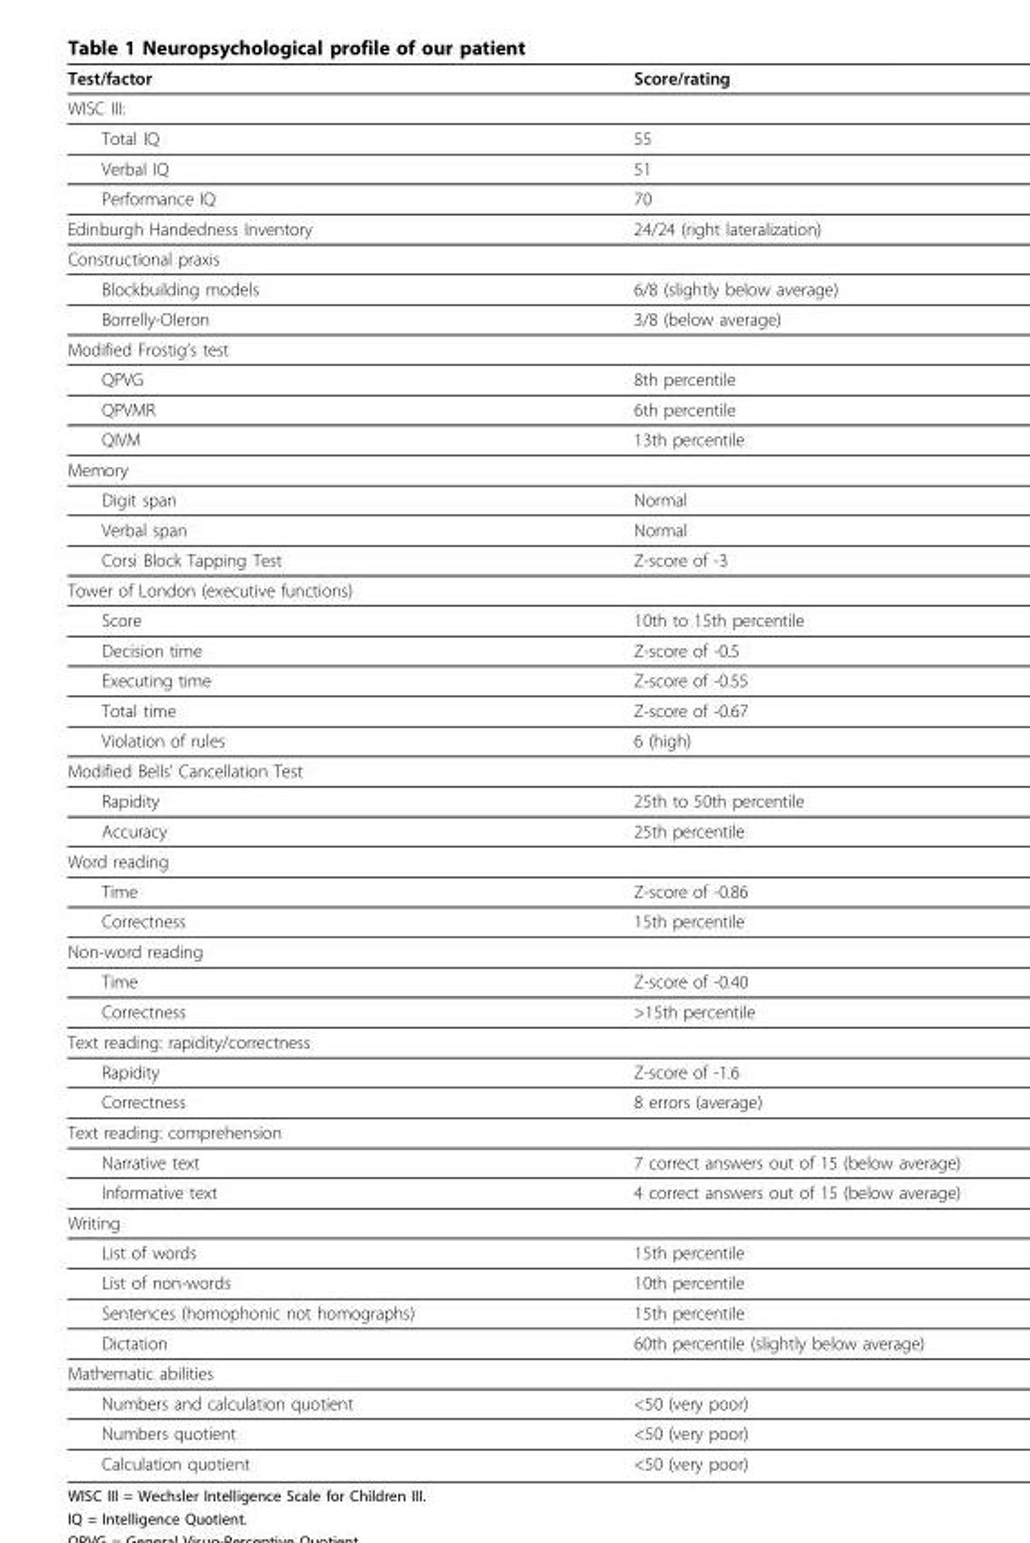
<table><thead><tr><td>Test/factor</td><td>Score/rating</td></tr></thead><tbody><tr><td colspan="2">WISC III:</td></tr><tr><td>Total IQ</td><td>55</td></tr><tr><td>Verbal IQ</td><td>51</td></tr><tr><td>Performance IQ</td><td>70</td></tr><tr><td>Edinburgh Handedness Inventory</td><td>24/24 (right lateralization)</td></tr><tr><td colspan="2">Constructional praxis</td></tr><tr><td>Blockbuilding models</td><td>6/8 (slightly below average)</td></tr><tr><td>Borrelly-Oleron</td><td>3/8 (below average)</td></tr><tr><td colspan="2">Modified Frostig’s test</td></tr><tr><td>QPVG</td><td>8th percentile</td></tr><tr><td>QPVMR</td><td>6th percentile</td></tr><tr><td>QIVM</td><td>13th percentile</td></tr><tr><td colspan="2">Memory</td></tr><tr><td>Digit span</td><td>Normal</td></tr><tr><td>Verbal span</td><td>Normal</td></tr><tr><td>Corsi Block Tapping Test</td><td>Z-score of -3</td></tr><tr><td colspan="2">Tower of London (executive functions)</td></tr><tr><td>Score</td><td>10th to 15th percentile</td></tr><tr><td>Decision time</td><td>Z-score of -0.5</td></tr><tr><td>Executing time</td><td>Z-score of -0.55</td></tr><tr><td>Total time</td><td>Z-score of -0.67</td></tr><tr><td>Violation of rules</td><td>6 (high)</td></tr><tr><td colspan="2">Modified Bells’ Cancellation Test</td></tr><tr><td>Rapidity</td><td>25th to 50th percentile</td></tr><tr><td>Accuracy</td><td>25th percentile</td></tr><tr><td colspan="2">Word reading</td></tr><tr><td>Time</td><td>Z-score of -0.86</td></tr><tr><td>Correctness</td><td>15th percentile</td></tr><tr><td colspan="2">Non-word reading</td></tr><tr><td>Time</td><td>Z-score of -0.40</td></tr><tr><td>Correctness</td><td>&gt;15th percentile</td></tr><tr><td colspan="2">Text reading: rapidity/correctness</td></tr><tr><td>Rapidity</td><td>Z-score of -1.6</td></tr><tr><td>Correctness</td><td>8 errors (average)</td></tr><tr><td colspan="2">Text reading: comprehension</td></tr><tr><td>Narrative text</td><td>7 correct answers out of 15 (below average)</td></tr><tr><td>Informative text</td><td>4 correct answers out of 15 (below average)</td></tr><tr><td colspan="2">Writing</td></tr><tr><td>List of words</td><td>15th percentile</td></tr><tr><td>List of non-words</td><td>10th percentile</td></tr><tr><td>Sentences (homophonic not homographs)</td><td>15th percentile</td></tr><tr><td>Dictation</td><td>60th percentile (slightly below average)</td></tr><tr><td colspan="2">Mathematic abilities</td></tr><tr><td>Numbers and calculation quotient</td><td>&lt;50 (very poor)</td></tr><tr><td>Numbers quotient</td><td>&lt;50 (very poor)</td></tr><tr><td>Calculation quotient</td><td>&lt;50 (very poor)</td></tr></tbody></table>